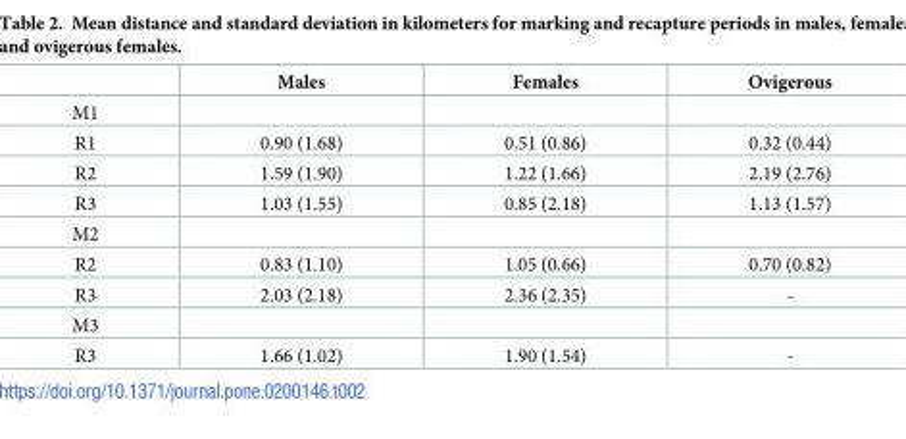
<table><thead><tr><td></td><td>Males</td><td>Females</td><td>Ovigerous</td></tr></thead><tbody><tr><td colspan="4">M1</td></tr><tr><td>R1</td><td>0.90 (1.68)</td><td>0.51 (0.86)</td><td>0.32 (0.44)</td></tr><tr><td>R2</td><td>1.59 (1.90)</td><td>1.22 (1.66)</td><td>2.19 (2.76)</td></tr><tr><td>R3</td><td>1.03 (1.55)</td><td>0.85 (2.18)</td><td>1.13 (1.57)</td></tr><tr><td colspan="4">M2</td></tr><tr><td>R2</td><td>0.83 (1.10)</td><td>1.05 (0.66)</td><td>0.70 (0.82)</td></tr><tr><td>R3</td><td>2.03 (2.18)</td><td>2.36 (2.35)</td><td>-</td></tr><tr><td colspan="4">M3</td></tr><tr><td>R3</td><td>1.66 (1.02)</td><td>1.90 (1.54)</td><td>-</td></tr></tbody></table>